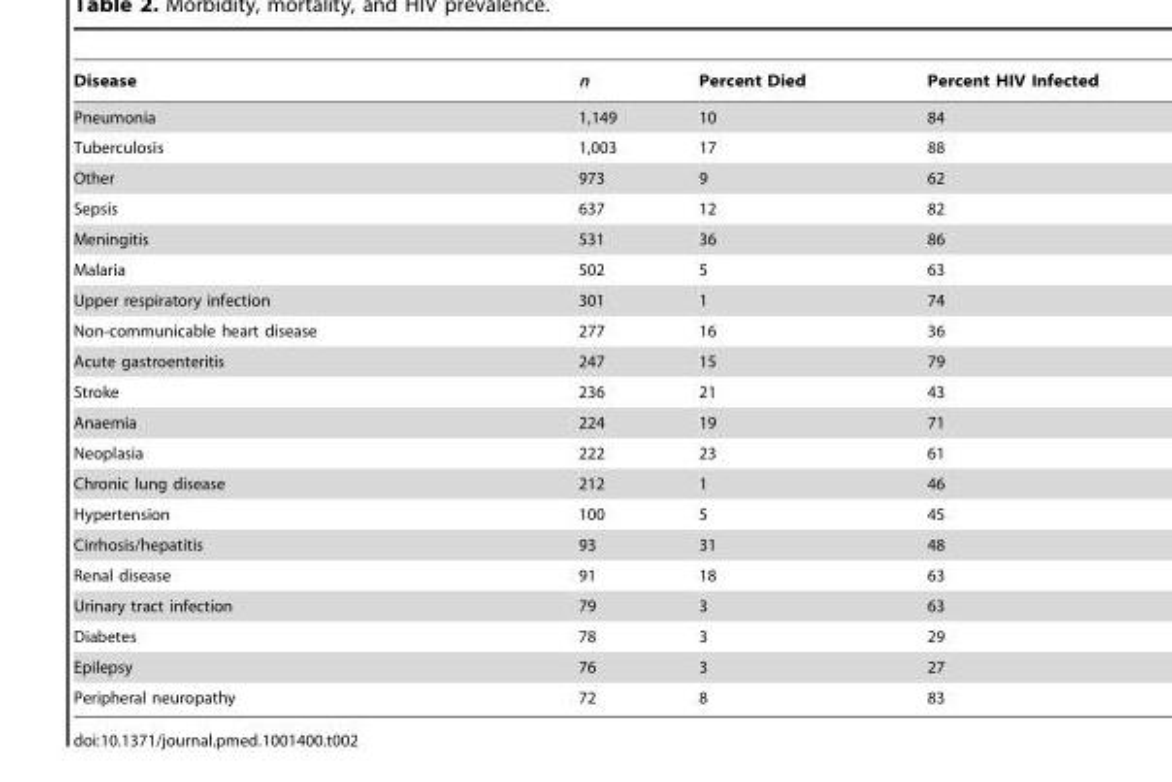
<table><thead><tr><td>Disease</td><td>n</td><td>Percent Died</td><td>Percent HIV Infected</td></tr></thead><tbody><tr><td>Pneumonia</td><td>1,149</td><td>10</td><td>84</td></tr><tr><td>Tuberculosis</td><td>1,003</td><td>17</td><td>88</td></tr><tr><td>Other</td><td>973</td><td>9</td><td>62</td></tr><tr><td>Sepsis</td><td>637</td><td>12</td><td>82</td></tr><tr><td>Meningitis</td><td>531</td><td>36</td><td>86</td></tr><tr><td>Malaria</td><td>502</td><td>5</td><td>63</td></tr><tr><td>Upper respiratory infection</td><td>301</td><td>1</td><td>74</td></tr><tr><td>Non-communicable heart disease</td><td>277</td><td>16</td><td>36</td></tr><tr><td>Acute gastroenteritis</td><td>247</td><td>15</td><td>79</td></tr><tr><td>Stroke</td><td>236</td><td>21</td><td>43</td></tr><tr><td>Anaemia</td><td>224</td><td>19</td><td>71</td></tr><tr><td>Neoplasia</td><td>222</td><td>23</td><td>61</td></tr><tr><td>Chronic lung disease</td><td>212</td><td>1</td><td>46</td></tr><tr><td>Hypertension</td><td>100</td><td>5</td><td>45</td></tr><tr><td>Cirrhosis/hepatitis</td><td>93</td><td>31</td><td>48</td></tr><tr><td>Renal disease</td><td>91</td><td>18</td><td>63</td></tr><tr><td>Urinary tract infection</td><td>79</td><td>3</td><td>63</td></tr><tr><td>Diabetes</td><td>78</td><td>3</td><td>29</td></tr><tr><td>Epilepsy</td><td>76</td><td>3</td><td>27</td></tr><tr><td>Peripheral neuropathy</td><td>72</td><td>8</td><td>83</td></tr></tbody></table>